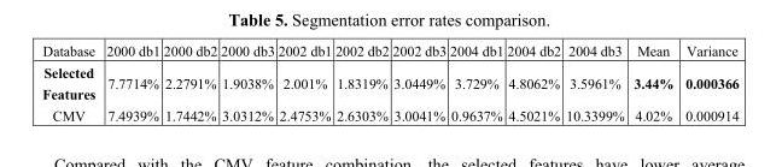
<table><thead><tr><td>Database</td><td>2000 db1</td><td>2000 db2</td><td>2000 db3</td><td>2002 db1</td><td>2002 db2</td><td>2002 db3</td><td>2004 db1</td><td>2004 db2</td><td>2004 db3</td><td>Mean</td><td>Variance</td></tr></thead><tbody><tr><td>Selected Features</td><td>7.7714%</td><td>2.2791%</td><td>1.9038%</td><td>2.001%</td><td>1.8319%</td><td>3.0449%</td><td>3.729%</td><td>4.8062%</td><td>3.5961%</td><td>3.44%</td><td>0.000366</td></tr><tr><td>CMV</td><td>7.4939%</td><td>1.7442%</td><td>3.0312%</td><td>2.4753%</td><td>2.6303%</td><td>3.0041%</td><td>0.9637%</td><td>4.5021%</td><td>10.3399%</td><td>4.02%</td><td>0.000914</td></tr></tbody></table>